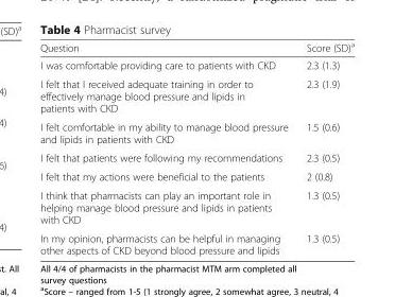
<table><thead><tr><td>Question</td><td>Score (SD)<sup>a</sup></td></tr></thead><tbody><tr><td>I was comfortable providing care to patients with CKD</td><td>2.3 (1.3)</td></tr><tr><td>I felt that I received adequate training in order to effectively manage blood pressure and lipids in patients with CKD</td><td>2.3 (1.9)</td></tr><tr><td>I felt comfortable in my ability to manage blood pressure and lipids in patients with CKD</td><td>1.5 (0.6)</td></tr><tr><td>I felt that patients were following my recommendations</td><td>2.3 (0.5)</td></tr><tr><td>I felt that my actions were beneficial to the patients</td><td>2 (0.8)</td></tr><tr><td>I think that pharmacists can play an important role in helping manage blood pressure and lipids in patients with CKD</td><td>1.3 (0.5)</td></tr><tr><td>In my opinion, pharmacists can be helpful in managing other aspects of CKD beyond blood pressure and lipids</td><td>1.3 (0.5)</td></tr></tbody></table>